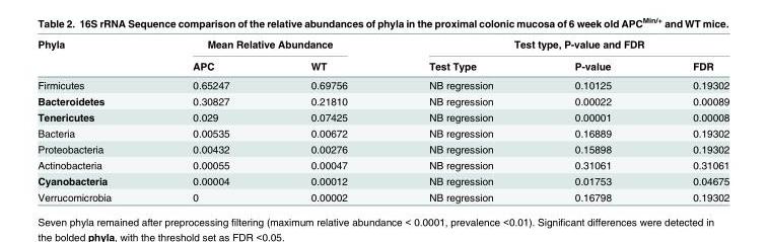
<table><thead><tr><td rowspan="2">Phyla</td><td colspan="2">Mean Relative Abundance</td><td colspan="3">Test type, P-value and FDR</td></tr><tr><td>APC</td><td>WT</td><td>Test Type</td><td>P-value</td><td>FDR</td></tr></thead><tbody><tr><td>Firmicutes</td><td>0.65247</td><td>0.69756</td><td>NB regression</td><td>0.10125</td><td>0.19302</td></tr><tr><td>Bacteroidetes</td><td>0.30827</td><td>0.21810</td><td>NB regression</td><td>0.00022</td><td>0.00089</td></tr><tr><td>Tenericutes</td><td>0.029</td><td>0.07425</td><td>NB regression</td><td>0.00001</td><td>0.00008</td></tr><tr><td>Bacteria</td><td>0.00535</td><td>0.00672</td><td>NB regression</td><td>0.16889</td><td>0.19302</td></tr><tr><td>Proteobacteria</td><td>0.00432</td><td>0.00276</td><td>NB regression</td><td>0.15898</td><td>0.19302</td></tr><tr><td>Actinobacteria</td><td>0.00055</td><td>0.00047</td><td>NB regression</td><td>0.31061</td><td>0.31061</td></tr><tr><td>Cyanobacteria</td><td>0.00004</td><td>0.00012</td><td>NB regression</td><td>0.01753</td><td>0.04675</td></tr><tr><td>Verrucomicrobia</td><td>0</td><td>0.00002</td><td>NB regression</td><td>0.16798</td><td>0.19302</td></tr></tbody></table>